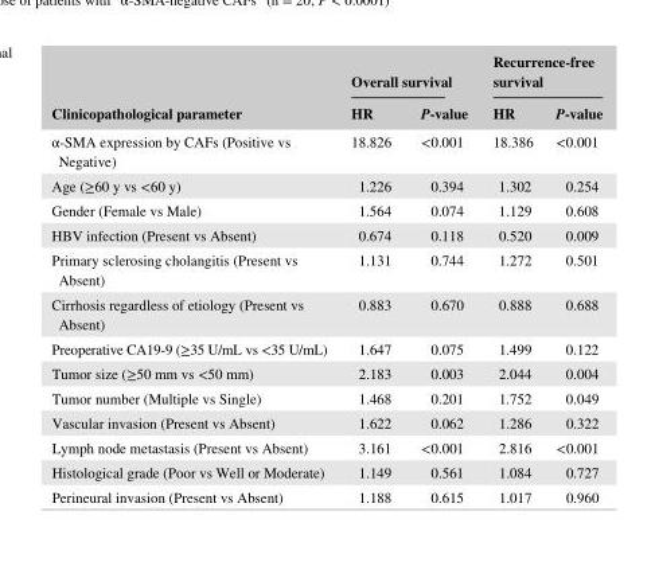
<table><thead><tr><td rowspan="2">Clinicopathological parameter</td><td colspan="2">Overall survival</td><td colspan="2">Recurrence- free survival</td></tr><tr><td>HR</td><td>P- value</td><td>HR</td><td>P- value</td></tr></thead><tbody><tr><td>α- SMA expression by CAFs (Positive vs Negative)</td><td>18.826</td><td>&lt;0.001</td><td>18.386</td><td>&lt;0.001</td></tr><tr><td>Age (≥60 y vs &lt;60 y)</td><td>1.226</td><td>0.394</td><td>1.302</td><td>0.254</td></tr><tr><td>Gender (Female vs Male)</td><td>1.564</td><td>0.074</td><td>1.129</td><td>0.608</td></tr><tr><td>HBV infection (Present vs Absent)</td><td>0.674</td><td>0.118</td><td>0.520</td><td>0.009</td></tr><tr><td>Primary sclerosing cholangitis (Present vs Absent)</td><td>1.131</td><td>0.744</td><td>1.272</td><td>0.501</td></tr><tr><td>Cirrhosis regardless of etiology (Present vs Absent)</td><td>0.883</td><td>0.670</td><td>0.888</td><td>0.688</td></tr><tr><td>Preoperative CA19- 9 (≥35 U/mL vs &lt;35 U/mL)</td><td>1.647</td><td>0.075</td><td>1.499</td><td>0.122</td></tr><tr><td>Tumor size (≥50 mm vs &lt;50 mm)</td><td>2.183</td><td>0.003</td><td>2.044</td><td>0.004</td></tr><tr><td>Tumor number (Multiple vs Single)</td><td>1.468</td><td>0.201</td><td>1.752</td><td>0.049</td></tr><tr><td>Vascular invasion (Present vs Absent)</td><td>1.622</td><td>0.062</td><td>1.286</td><td>0.322</td></tr><tr><td>Lymph node metastasis (Present vs Absent)</td><td>3.161</td><td>&lt;0.001</td><td>2.816</td><td>&lt;0.001</td></tr><tr><td>Histological grade (Poor vs Well or Moderate)</td><td>1.149</td><td>0.561</td><td>1.084</td><td>0.727</td></tr><tr><td>Perineural invasion (Present vs Absent)</td><td>1.188</td><td>0.615</td><td>1.017</td><td>0.960</td></tr></tbody></table>